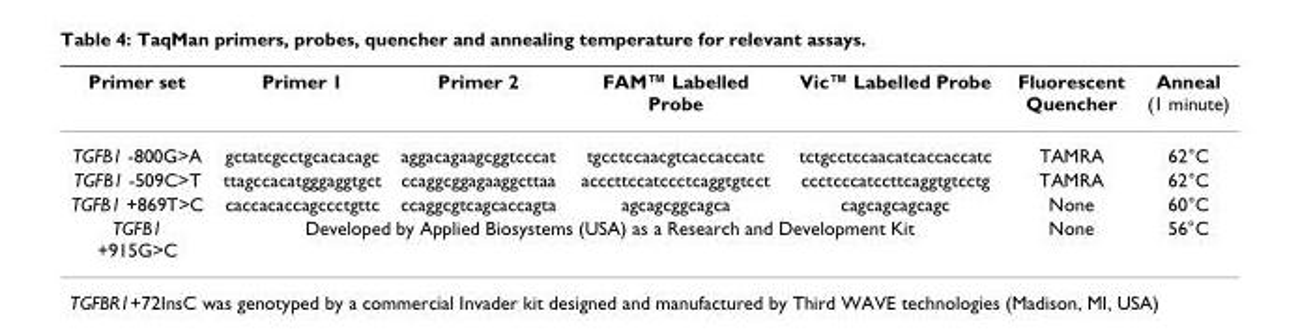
<table><thead><tr><td>Primer set</td><td>Primer 1</td><td>Primer 2</td><td>FAM™ Labelled Probe</td><td>Vic™ Labelled Probe</td><td>Fluorescent Quencher</td><td>Anneal (1 minute)</td></tr></thead><tbody><tr><td>TGFB1 -800G&gt;A</td><td>gctatcgcctgcacacagc</td><td>aggacagaagcggtcccat</td><td>tgcctccaacgtcaccaccatc</td><td>tctgcctccaacatcaccaccatc</td><td>TAMRA</td><td>62°C</td></tr><tr><td>TGFB1 -509C&gt;T</td><td>ttagccacatgggaggtgct</td><td>ccaggcggagaaggcttaa</td><td>acccttccatccctcaggtgtcct</td><td>ccctcccatccttcaggtgtcctg</td><td>TAMRA</td><td>62°C</td></tr><tr><td>TGFB1 +869T&gt;C</td><td>caccacaccagccctgttc</td><td>ccaggcgtcagcaccagta</td><td>agcagcggcagca</td><td>cagcagcagcagc</td><td>None</td><td>60°C</td></tr><tr><td>TGFB1 +915G&gt;C</td><td colspan="4">Developed by Applied Biosystems (USA) as a Research and Development Kit</td><td>None</td><td>56°C</td></tr></tbody></table>